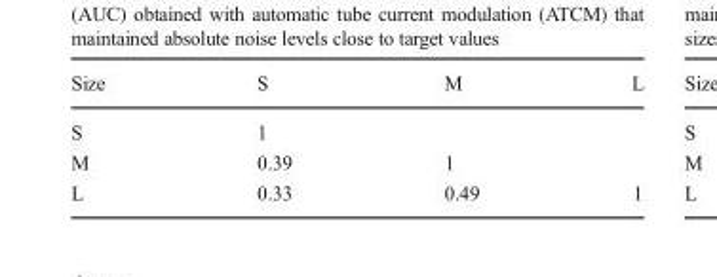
<table><thead><tr><td>Size</td><td>S</td><td>M</td><td>L</td></tr></thead><tbody><tr><td>S</td><td>1</td><td></td><td></td></tr><tr><td>M</td><td>0.39</td><td>1</td><td></td></tr><tr><td>L</td><td>0.33</td><td>0.49</td><td>1</td></tr></tbody></table>